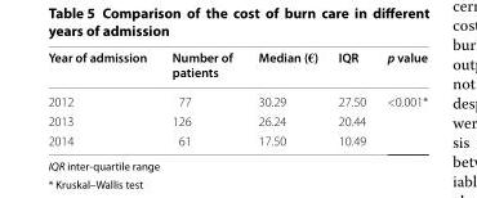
<table><thead><tr><td>Year of admission</td><td>Number of patients</td><td>Median (€)</td><td>IQR</td><td>p value</td></tr></thead><tbody><tr><td>2012</td><td>77</td><td>30.29</td><td>27.50</td><td rowspan="3">&lt;0.001*</td></tr><tr><td>2013</td><td>126</td><td>26.24</td><td>20.44</td></tr><tr><td>2014</td><td>61</td><td>17.50</td><td>10.49</td></tr></tbody></table>